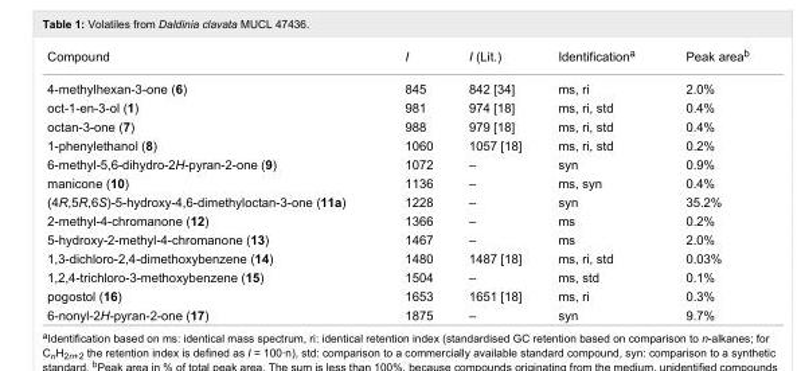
<table><tbody><tr><td>Compound</td><td>I</td><td>I (Lit.)</td><td>Identification<sup>a</sup></td><td>Peak area<sup>b</sup></td></tr><tr><td>4-methylhexan-3-one (6)</td><td>845</td><td>842 [34]</td><td>ms, ri</td><td>2.0%</td></tr><tr><td>oct-1-en-3-ol (1)</td><td>981</td><td>974 [18]</td><td>ms, ri, std</td><td>0.4%</td></tr><tr><td>octan-3-one (7)</td><td>988</td><td>979 [18]</td><td>ms, ri, std</td><td>0.4%</td></tr><tr><td>1-phenylethanol (8)</td><td>1060</td><td>1057 [18]</td><td>ms, ri, std</td><td>0.2%</td></tr><tr><td>6-methyl-5,6-dihydro-2H-pyran-2-one (9)</td><td>1072</td><td>–</td><td>syn</td><td>0.9%</td></tr><tr><td>manicone (10)</td><td>1136</td><td>–</td><td>ms, syn</td><td>0.4%</td></tr><tr><td>(4R,5R,6S)-5-hydroxy-4,6-dimethyloctan-3-one (11a)</td><td>1228</td><td>–</td><td>syn</td><td>35.2%</td></tr><tr><td>2-methyl-4-chromanone (12)</td><td>1366</td><td>–</td><td>ms</td><td>0.2%</td></tr><tr><td>5-hydroxy-2-methyl-4-chromanone (13)</td><td>1467</td><td>–</td><td>ms</td><td>2.0%</td></tr><tr><td>1,3-dichloro-2,4-dimethoxybenzene (14)</td><td>1480</td><td>1487 [18]</td><td>ms, ri, std</td><td>0.03%</td></tr><tr><td>1,2,4-trichloro-3-methoxybenzene (15)</td><td>1504</td><td>–</td><td>ms, std</td><td>0.1%</td></tr><tr><td>pogostol (16)</td><td>1653</td><td>1651 [18]</td><td>ms, ri</td><td>0.3%</td></tr><tr><td>6-nonyl-2H-pyran-2-one (17)</td><td>1875</td><td>–</td><td>syn</td><td>9.7%</td></tr></tbody></table>